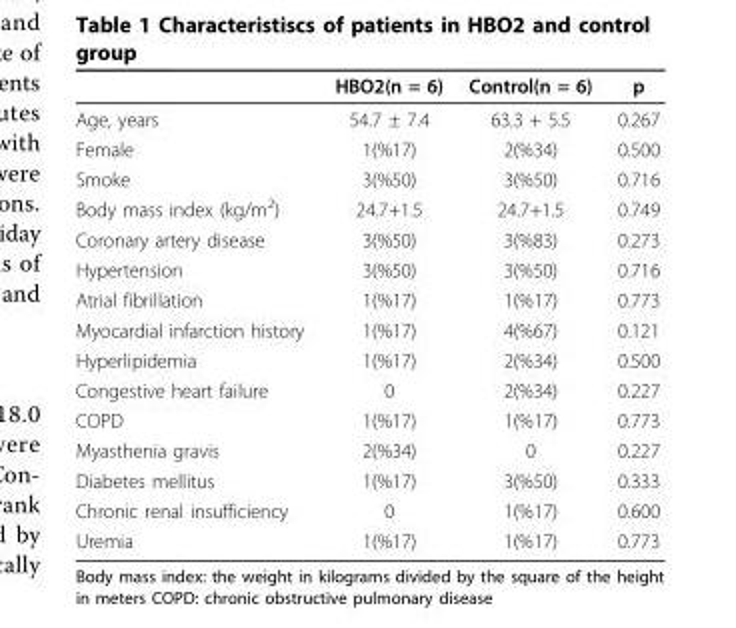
<table><thead><tr><td></td><td>HBO2(n = 6)</td><td>Control(n = 6)</td><td>p</td></tr></thead><tbody><tr><td>Age, years</td><td>54.7 ± 7.4</td><td>63.3 + 5.5</td><td>0.267</td></tr><tr><td>Female</td><td>1(%17)</td><td>2(%34)</td><td>0.500</td></tr><tr><td>Smoke</td><td>3(%50)</td><td>3(%50)</td><td>0.716</td></tr><tr><td>Body mass index (kg/m<sup>2</sup>)</td><td>24.7+1.5</td><td>24.7+1.5</td><td>0.749</td></tr><tr><td>Coronary artery disease</td><td>3(%50)</td><td>3(%83)</td><td>0.273</td></tr><tr><td>Hypertension</td><td>3(%50)</td><td>3(%50)</td><td>0.716</td></tr><tr><td>Atrial fibrillation</td><td>1(%17)</td><td>1(%17)</td><td>0.773</td></tr><tr><td>Myocardial infarction history</td><td>1(%17)</td><td>4(%67)</td><td>0.121</td></tr><tr><td>Hyperlipidemia</td><td>1(%17)</td><td>2(%34)</td><td>0.500</td></tr><tr><td>Congestive heart failure</td><td>0</td><td>2(%34)</td><td>0.227</td></tr><tr><td>COPD</td><td>1(%17)</td><td>1(%17)</td><td>0.773</td></tr><tr><td>Myasthenia gravis</td><td>2(%34)</td><td>0</td><td>0.227</td></tr><tr><td>Diabetes mellitus</td><td>1(%17)</td><td>3(%50)</td><td>0.333</td></tr><tr><td>Chronic renal insufficiency</td><td>0</td><td>1(%17)</td><td>0.600</td></tr><tr><td>Uremia</td><td>1(%17)</td><td>1(%17)</td><td>0.773</td></tr></tbody></table>